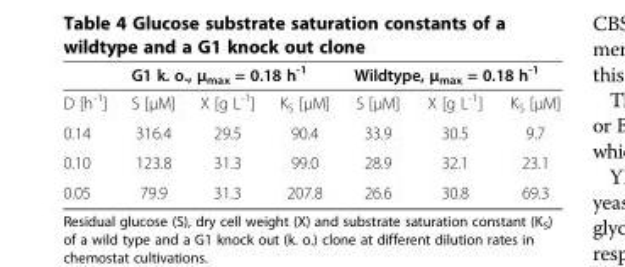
<table><thead><tr><td rowspan="2">D [h<sup>-1</sup>]</td><td colspan="3">G1 k. o., μ<sub>max</sub> = 0.18 h<sup>-1</sup></td><td colspan="3">Wildtype, μ<sub>max</sub> = 0.18 h<sup>-1</sup></td></tr><tr><td>S [μM]</td><td>X [g L<sup>-1</sup>]</td><td>K<sub>S</sub> [μM]</td><td>S [μM]</td><td>X [g L<sup>-1</sup>]</td><td>K<sub>S</sub> [μM]</td></tr></thead><tbody><tr><td>0.14</td><td>316.4</td><td>29.5</td><td>90.4</td><td>33.9</td><td>30.5</td><td>9.7</td></tr><tr><td>0.10</td><td>123.8</td><td>31.3</td><td>99.0</td><td>28.9</td><td>32.1</td><td>23.1</td></tr><tr><td>0.05</td><td>79.9</td><td>31.3</td><td>207.8</td><td>26.6</td><td>30.8</td><td>69.3</td></tr></tbody></table>